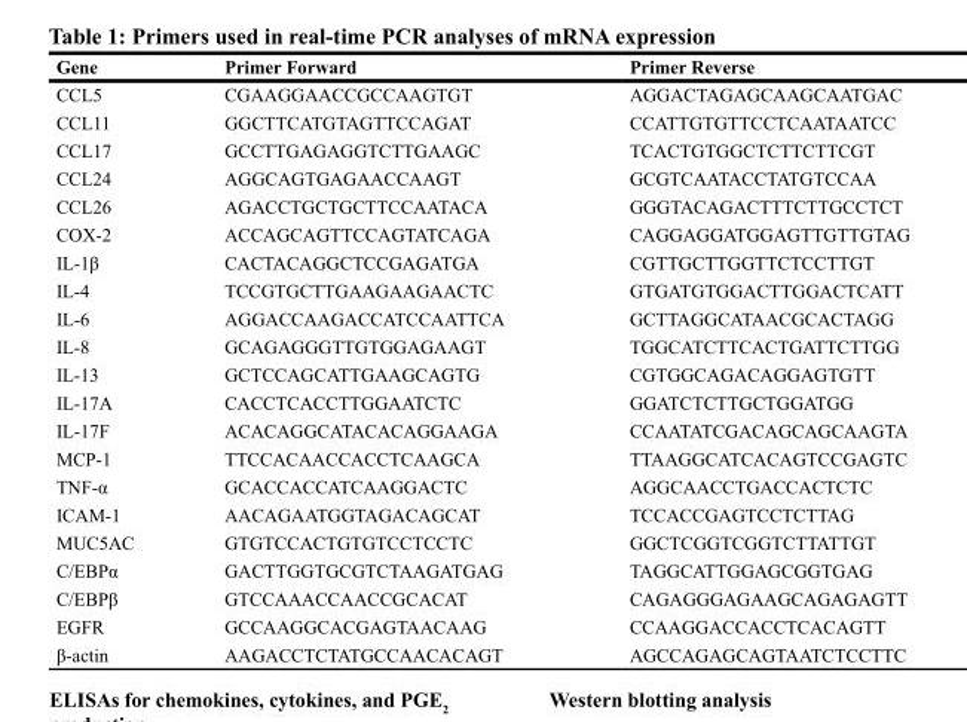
<table><thead><tr><td>Gene</td><td>Primer Forward</td><td>Primer Reverse</td></tr></thead><tbody><tr><td>CCL5</td><td>CGAAGGAACCGCCAAGTGT</td><td>AGGACTAGAGCAAGCAATGAC</td></tr><tr><td>CCL11</td><td>GGCTTCATGTAGTTCCAGAT</td><td>CCATTGTGTTCCTCAATAATCC</td></tr><tr><td>CCL17</td><td>GCCTTGAGAGGTCTTGAAGC</td><td>TCACTGTGGCTCTTCTTCGT</td></tr><tr><td>CCL24</td><td>AGGCAGTGAGAACCAAGT</td><td>GCGTCAATACCTATGTCCAA</td></tr><tr><td>CCL26</td><td>AGACCTGCTGCTTCCAATACA</td><td>GGGTACAGACTTTCTTGCCTCT</td></tr><tr><td>COX-2</td><td>ACCAGCAGTTCCAGTATCAGA</td><td>CAGGAGGATGGAGTTGTTGTAG</td></tr><tr><td>IL-1β</td><td>CACTACAGGCTCCGAGATGA</td><td>CGTTGCTTGGTTCTCCTTGT</td></tr><tr><td>IL-4</td><td>TCCGTGCTTGAAGAAGAACTC</td><td>GTGATGTGGACTTGGACTCATT</td></tr><tr><td>IL-6</td><td>AGGACCAAGACCATCCAATTCA</td><td>GCTTAGGCATAACGCACTAGG</td></tr><tr><td>IL-8</td><td>GCAGAGGGTTGTGGAGAAGT</td><td>TGGCATCTTCACTGATTCTTGG</td></tr><tr><td>IL-13</td><td>GCTCCAGCATTGAAGCAGTG</td><td>CGTGGCAGACAGGAGTGTT</td></tr><tr><td>IL-17A</td><td>CACCTCACCTTGGAATCTC</td><td>GGATCTCTTGCTGGATGG</td></tr><tr><td>IL-17F</td><td>ACACAGGCATACACAGGAAGA</td><td>CCAATATCGACAGCAGCAAGTA</td></tr><tr><td>MCP-1</td><td>TTCCACAACCACCTCAAGCA</td><td>TTAAGGCATCACAGTCCGAGTC</td></tr><tr><td>TNF-α</td><td>GCACCACCATCAAGGACTC</td><td>AGGCAACCTGACCACTCTC</td></tr><tr><td>ICAM-1</td><td>AACAGAATGGTAGACAGCAT</td><td>TCCACCGAGTCCTCTTAG</td></tr><tr><td>MUC5AC</td><td>GTGTCCACTGTGTCCTCCTC</td><td>GGCTCGGTCGGTCTTATTGT</td></tr><tr><td>C/EBPα</td><td>GACTTGGTGCGTCTAAGATGAG</td><td>TAGGCATTGGAGCGGTGAG</td></tr><tr><td>C/EBPβ</td><td>GTCCAAACCAACCGCACAT</td><td>CAGAGGGAGAAGCAGAGAGTT</td></tr><tr><td>EGFR</td><td>GCCAAGGCACGAGTAACAAG</td><td>CCAAGGACCACCTCACAGTT</td></tr><tr><td>β-actin</td><td>AAGACCTCTATGCCAACACAGT</td><td>AGCCAGAGCAGTAATCTCCTTC</td></tr></tbody></table>